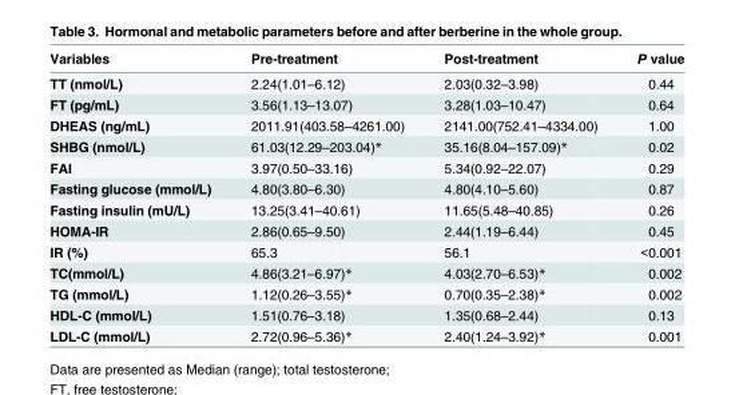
<table><thead><tr><td>Variables</td><td>Pre-treatment</td><td>Post-treatment</td><td>P value</td></tr></thead><tbody><tr><td>TT (nmol/L)</td><td>2.24(1.01–6.12)</td><td>2.03(0.32–3.98)</td><td>0.44</td></tr><tr><td>FT (pg/mL)</td><td>3.56(1.13–13.07)</td><td>3.28(1.03–10.47)</td><td>0.64</td></tr><tr><td>DHEAS (ng/mL)</td><td>2011.91(403.58–4261.00)</td><td>2141.00(752.41–4334.00)</td><td>1.00</td></tr><tr><td>SHBG (nmol/L)</td><td>61.03(12.29–203.04)*</td><td>35.16(8.04–157.09)*</td><td>0.02</td></tr><tr><td>FAI</td><td>3.97(0.50–33.16)</td><td>5.34(0.92–22.07)</td><td>0.29</td></tr><tr><td>Fasting glucose (mmol/L)</td><td>4.80(3.80–6.30)</td><td>4.80(4.10–5.60)</td><td>0.87</td></tr><tr><td>Fasting insulin (mU/L)</td><td>13.25(3.41–40.61)</td><td>11.65(5.48–40.85)</td><td>0.26</td></tr><tr><td>HOMA-IR</td><td>2.86(0.65–9.50)</td><td>2.44(1.19–6.44)</td><td>0.45</td></tr><tr><td>IR (%)</td><td>65.3</td><td>56.1</td><td>&lt;0.001</td></tr><tr><td>TC(mmol/L)</td><td>4.86(3.21–6.97)*</td><td>4.03(2.70–6.53)*</td><td>0.002</td></tr><tr><td>TG (mmol/L)</td><td>1.12(0.26–3.55)*</td><td>0.70(0.35–2.38)*</td><td>0.002</td></tr><tr><td>HDL-C (mmol/L)</td><td>1.51(0.76–3.18)</td><td>1.35(0.68–2.44)</td><td>0.13</td></tr><tr><td>LDL-C (mmol/L)</td><td>2.72(0.96–5.36)*</td><td>2.40(1.24–3.92)*</td><td>0.001</td></tr></tbody></table>